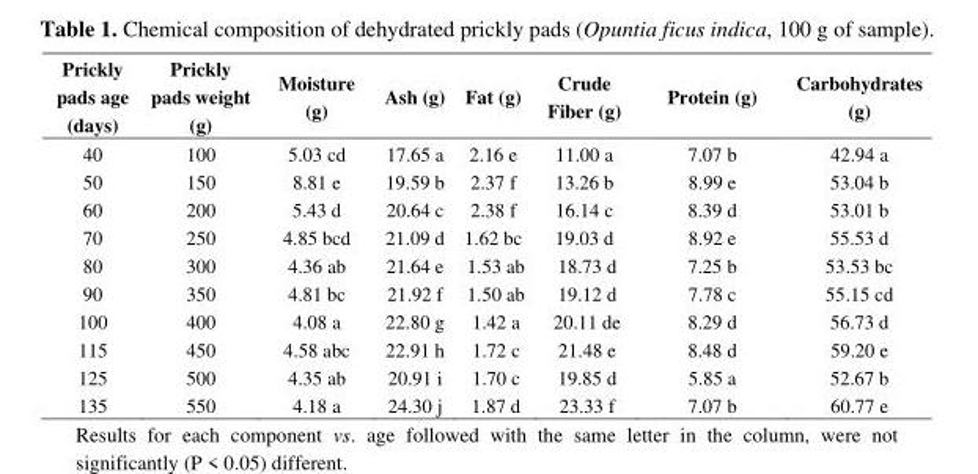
<table><thead><tr><td>Prickly pads age (days)</td><td>Prickly pads weight (g)</td><td>Moisture (g)</td><td>Ash (g)</td><td>Fat (g)</td><td>Crude Fiber (g)</td><td>Protein (g)</td><td>Carbohydrates (g)</td></tr></thead><tbody><tr><td>40</td><td>100</td><td>5.03 cd</td><td>17.65 a</td><td>2.16 e</td><td>11.00 a</td><td>7.07 b</td><td>42.94 a</td></tr><tr><td>50</td><td>150</td><td>8.81 e</td><td>19.59 b</td><td>2.37 f</td><td>13.26 b</td><td>8.99 e</td><td>53.04 b</td></tr><tr><td>60</td><td>200</td><td>5.43 d</td><td>20.64 c</td><td>2.38 f</td><td>16.14 c</td><td>8.39 d</td><td>53.01 b</td></tr><tr><td>70</td><td>250</td><td>4.85 bcd</td><td>21.09 d</td><td>1.62 bc</td><td>19.03 d</td><td>8.92 e</td><td>55.53 d</td></tr><tr><td>80</td><td>300</td><td>4.36 ab</td><td>21.64 e</td><td>1.53 ab</td><td>18.73 d</td><td>7.25 b</td><td>53.53 bc</td></tr><tr><td>90</td><td>350</td><td>4.81 bc</td><td>21.92 f</td><td>1.50 ab</td><td>19.12 d</td><td>7.78 c</td><td>55.15 cd</td></tr><tr><td>100</td><td>400</td><td>4.08 a</td><td>22.80 g</td><td>1.42 a</td><td>20.11 de</td><td>8.29 d</td><td>56.73 d</td></tr><tr><td>115</td><td>450</td><td>4.58 abc</td><td>22.91 h</td><td>1.72 c</td><td>21.48 e</td><td>8.48 d</td><td>59.20 e</td></tr><tr><td>125</td><td>500</td><td>4.35 ab</td><td>20.91 i</td><td>1.70 c</td><td>19.85 d</td><td>5.85 a</td><td>52.67 b</td></tr><tr><td>135</td><td>550</td><td>4.18 a</td><td>24.30 j</td><td>1.87 d</td><td>23.33 f</td><td>7.07 b</td><td>60.77 e</td></tr></tbody></table>